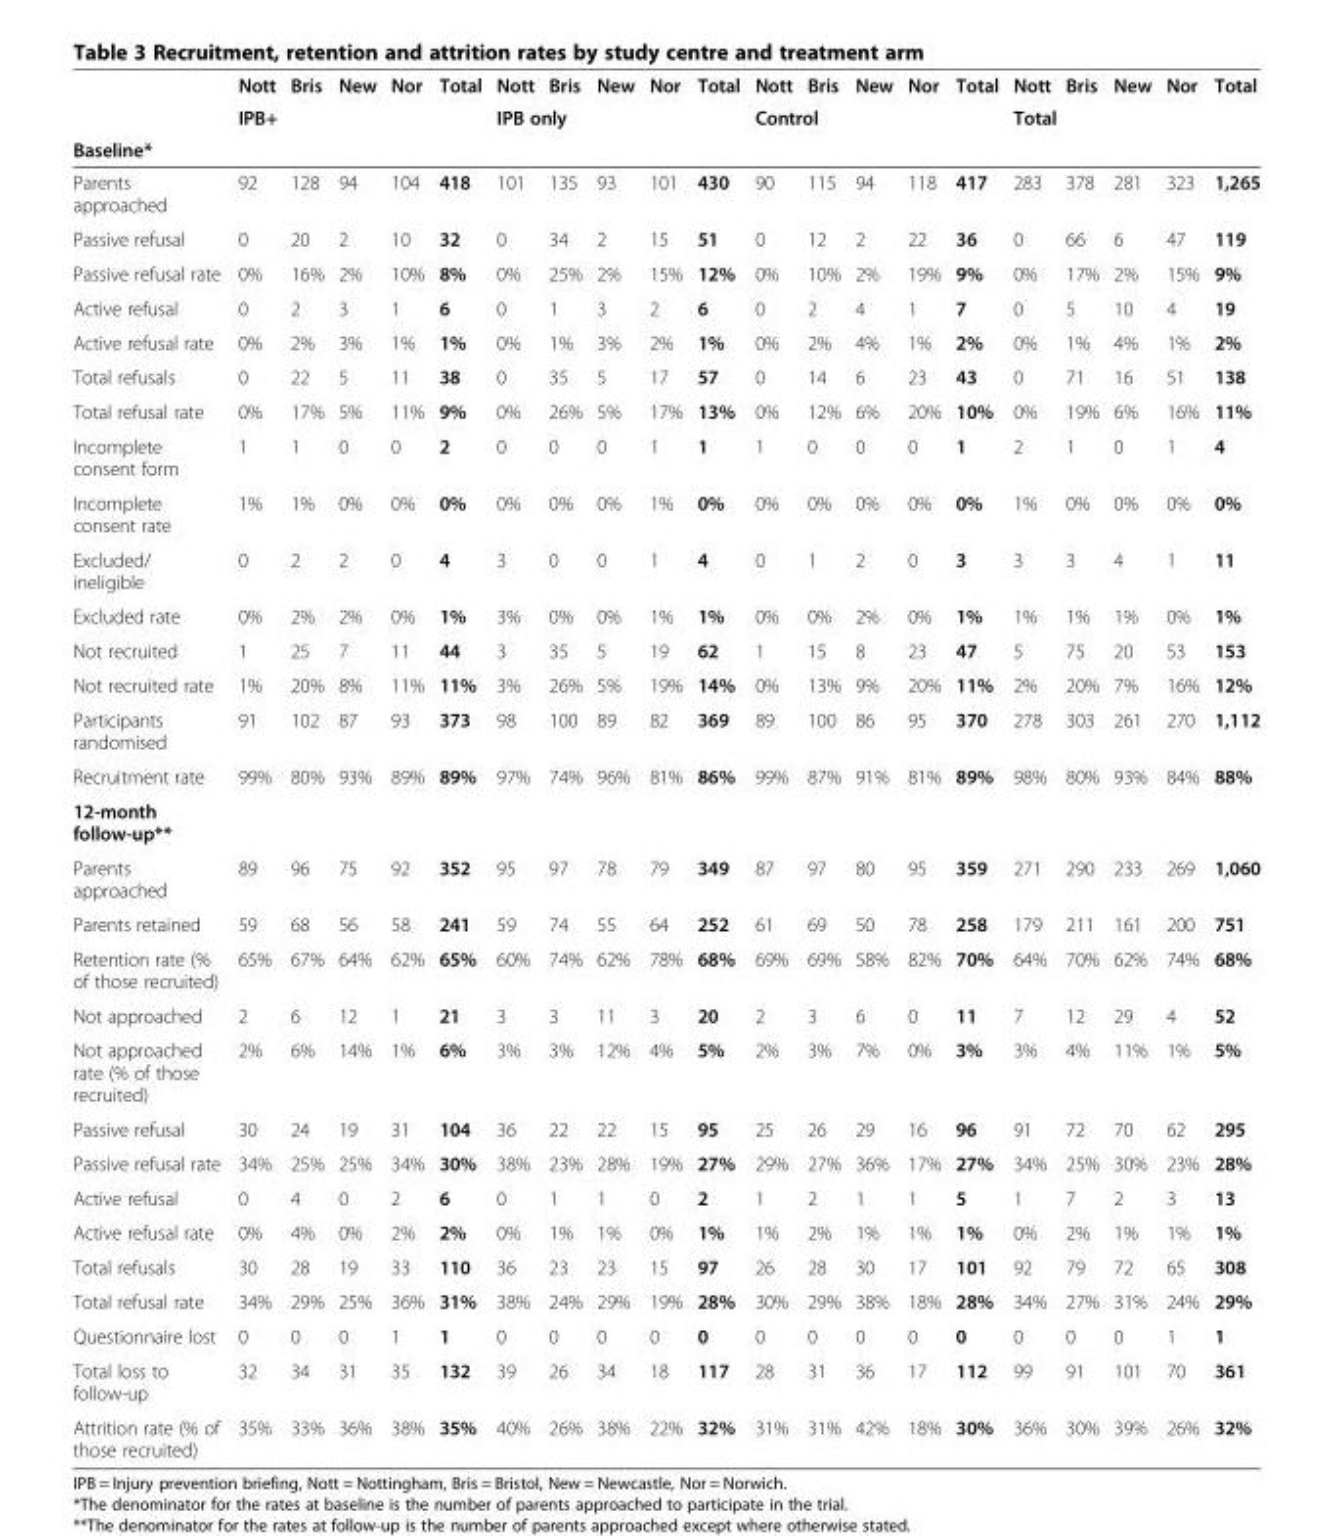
<table><thead><tr><td rowspan="3">Baseline*</td><td>Nott</td><td>Bris</td><td>New</td><td>Nor</td><td>Total</td><td>Nott</td><td>Bris</td><td>New</td><td>Nor</td><td>Total</td><td>Nott</td><td>Bris</td><td>New</td><td>Nor</td><td>Total</td><td>Nott</td><td>Bris</td><td>New</td><td>Nor</td><td>Total</td></tr><tr><td colspan="5">IPB+</td><td colspan="5">IPB only</td><td colspan="5">Control</td><td colspan="5">Total</td></tr><tr><td></td><td></td><td></td><td></td><td></td><td></td><td></td><td></td><td></td><td></td><td></td><td></td><td></td><td></td><td></td><td></td><td></td><td></td><td></td><td></td></tr></thead><tbody><tr><td>Parents approached</td><td>92</td><td>128</td><td>94</td><td>104</td><td>418</td><td>101</td><td>135</td><td>93</td><td>101</td><td>430</td><td>90</td><td>115</td><td>94</td><td>118</td><td>417</td><td>283</td><td>378</td><td>281</td><td>323</td><td>1,265</td></tr><tr><td>Passive refusal</td><td>0</td><td>20</td><td>2</td><td>10</td><td>32</td><td>0</td><td>34</td><td>2</td><td>15</td><td>51</td><td>0</td><td>12</td><td>2</td><td>22</td><td>36</td><td>0</td><td>66</td><td>6</td><td>47</td><td>119</td></tr><tr><td>Passive refusal rate</td><td>0%</td><td>16%</td><td>2%</td><td>10%</td><td>8%</td><td>0%</td><td>25%</td><td>2%</td><td>15%</td><td>12%</td><td>0%</td><td>10%</td><td>2%</td><td>19%</td><td>9%</td><td>0%</td><td>17%</td><td>2%</td><td>15%</td><td>9%</td></tr><tr><td>Active refusal</td><td>0</td><td>2</td><td>3</td><td>1</td><td>6</td><td>0</td><td>1</td><td>3</td><td>2</td><td>6</td><td>0</td><td>2</td><td>4</td><td>1</td><td>7</td><td>0</td><td>5</td><td>10</td><td>4</td><td>19</td></tr><tr><td>Active refusal rate</td><td>0%</td><td>2%</td><td>3%</td><td>1%</td><td>1%</td><td>0%</td><td>1%</td><td>3%</td><td>2%</td><td>1%</td><td>0%</td><td>2%</td><td>4%</td><td>1%</td><td>2%</td><td>0%</td><td>1%</td><td>4%</td><td>1%</td><td>2%</td></tr><tr><td>Total refusals</td><td>0</td><td>22</td><td>5</td><td>11</td><td>38</td><td>0</td><td>35</td><td>5</td><td>17</td><td>57</td><td>0</td><td>14</td><td>6</td><td>23</td><td>43</td><td>0</td><td>71</td><td>16</td><td>51</td><td>138</td></tr><tr><td>Total refusal rate</td><td>0%</td><td>17%</td><td>5%</td><td>11%</td><td>9%</td><td>0%</td><td>26%</td><td>5%</td><td>17%</td><td>13%</td><td>0%</td><td>12%</td><td>6%</td><td>20%</td><td>10%</td><td>0%</td><td>19%</td><td>6%</td><td>16%</td><td>11%</td></tr><tr><td>Incomplete consent form</td><td>1</td><td>1</td><td>0</td><td>0</td><td>2</td><td>0</td><td>0</td><td>0</td><td>1</td><td>1</td><td>1</td><td>0</td><td>0</td><td>0</td><td>1</td><td>2</td><td>1</td><td>0</td><td>1</td><td>4</td></tr><tr><td>Incomplete consent rate</td><td>1%</td><td>1%</td><td>0%</td><td>0%</td><td>0%</td><td>0%</td><td>0%</td><td>0%</td><td>1%</td><td>0%</td><td>0%</td><td>0%</td><td>0%</td><td>0%</td><td>0%</td><td>1%</td><td>0%</td><td>0%</td><td>0%</td><td>0%</td></tr><tr><td>Excluded/ ineligible</td><td>0</td><td>2</td><td>2</td><td>0</td><td>4</td><td>3</td><td>0</td><td>0</td><td>1</td><td>4</td><td>0</td><td>1</td><td>2</td><td>0</td><td>3</td><td>3</td><td>3</td><td>4</td><td>1</td><td>11</td></tr><tr><td>Excluded rate</td><td>0%</td><td>2%</td><td>2%</td><td>0%</td><td>1%</td><td>3%</td><td>0%</td><td>0%</td><td>1%</td><td>1%</td><td>0%</td><td>0%</td><td>2%</td><td>0%</td><td>1%</td><td>1%</td><td>1%</td><td>1%</td><td>0%</td><td>1%</td></tr><tr><td>Not recruited</td><td>1</td><td>25</td><td>7</td><td>11</td><td>44</td><td>3</td><td>35</td><td>5</td><td>19</td><td>62</td><td>1</td><td>15</td><td>8</td><td>23</td><td>47</td><td>5</td><td>75</td><td>20</td><td>53</td><td>153</td></tr><tr><td>Not recruited rate</td><td>1%</td><td>20%</td><td>8%</td><td>11%</td><td>11%</td><td>3%</td><td>26%</td><td>5%</td><td>19%</td><td>14%</td><td>0%</td><td>13%</td><td>9%</td><td>20%</td><td>11%</td><td>2%</td><td>20%</td><td>7%</td><td>16%</td><td>12%</td></tr><tr><td>Participants randomised</td><td>91</td><td>102</td><td>87</td><td>93</td><td>373</td><td>98</td><td>100</td><td>89</td><td>82</td><td>369</td><td>89</td><td>100</td><td>86</td><td>95</td><td>370</td><td>278</td><td>303</td><td>261</td><td>270</td><td>1,112</td></tr><tr><td>Recruitment rate</td><td>99%</td><td>80%</td><td>93%</td><td>89%</td><td>89%</td><td>97%</td><td>74%</td><td>96%</td><td>81%</td><td>86%</td><td>99%</td><td>87%</td><td>91%</td><td>81%</td><td>89%</td><td>98%</td><td>80%</td><td>93%</td><td>84%</td><td>88%</td></tr><tr><td colspan="21">12-month follow-up**</td></tr><tr><td>Parents approached</td><td>89</td><td>96</td><td>75</td><td>92</td><td>352</td><td>95</td><td>97</td><td>78</td><td>79</td><td>349</td><td>87</td><td>97</td><td>80</td><td>95</td><td>359</td><td>271</td><td>290</td><td>233</td><td>269</td><td>1,060</td></tr><tr><td>Parents retained</td><td>59</td><td>68</td><td>56</td><td>58</td><td>241</td><td>59</td><td>74</td><td>55</td><td>64</td><td>252</td><td>61</td><td>69</td><td>50</td><td>78</td><td>258</td><td>179</td><td>211</td><td>161</td><td>200</td><td>751</td></tr><tr><td>Retention rate (% of those recruited)</td><td>65%</td><td>67%</td><td>64%</td><td>62%</td><td>65%</td><td>60%</td><td>74%</td><td>62%</td><td>78%</td><td>68%</td><td>69%</td><td>69%</td><td>58%</td><td>82%</td><td>70%</td><td>64%</td><td>70%</td><td>62%</td><td>74%</td><td>68%</td></tr><tr><td>Not approached</td><td>2</td><td>6</td><td>12</td><td>1</td><td>21</td><td>3</td><td>3</td><td>11</td><td>3</td><td>20</td><td>2</td><td>3</td><td>6</td><td>0</td><td>11</td><td>7</td><td>12</td><td>29</td><td>4</td><td>52</td></tr><tr><td>Not approached rate (% of those recruited)</td><td>2%</td><td>6%</td><td>14%</td><td>1%</td><td>6%</td><td>3%</td><td>3%</td><td>12%</td><td>4%</td><td>5%</td><td>2%</td><td>3%</td><td>7%</td><td>0%</td><td>3%</td><td>3%</td><td>4%</td><td>11%</td><td>1%</td><td>5%</td></tr><tr><td>Passive refusal</td><td>30</td><td>24</td><td>19</td><td>31</td><td>104</td><td>36</td><td>22</td><td>22</td><td>15</td><td>95</td><td>25</td><td>26</td><td>29</td><td>16</td><td>96</td><td>91</td><td>72</td><td>70</td><td>62</td><td>295</td></tr><tr><td>Passive refusal rate</td><td>34%</td><td>25%</td><td>25%</td><td>34%</td><td>30%</td><td>38%</td><td>23%</td><td>28%</td><td>19%</td><td>27%</td><td>29%</td><td>27%</td><td>36%</td><td>17%</td><td>27%</td><td>34%</td><td>25%</td><td>30%</td><td>23%</td><td>28%</td></tr><tr><td>Active refusal</td><td>0</td><td>4</td><td>0</td><td>2</td><td>6</td><td>0</td><td>1</td><td>1</td><td>0</td><td>2</td><td>1</td><td>2</td><td>1</td><td>1</td><td>5</td><td>1</td><td>7</td><td>2</td><td>3</td><td>13</td></tr><tr><td>Active refusal rate</td><td>0%</td><td>4%</td><td>0%</td><td>2%</td><td>2%</td><td>0%</td><td>1%</td><td>1%</td><td>0%</td><td>1%</td><td>1%</td><td>2%</td><td>1%</td><td>1%</td><td>1%</td><td>0%</td><td>2%</td><td>1%</td><td>1%</td><td>1%</td></tr><tr><td>Total refusals</td><td>30</td><td>28</td><td>19</td><td>33</td><td>110</td><td>36</td><td>23</td><td>23</td><td>15</td><td>97</td><td>26</td><td>28</td><td>30</td><td>17</td><td>101</td><td>92</td><td>79</td><td>72</td><td>65</td><td>308</td></tr><tr><td>Total refusal rate</td><td>34%</td><td>29%</td><td>25%</td><td>36%</td><td>31%</td><td>38%</td><td>24%</td><td>29%</td><td>19%</td><td>28%</td><td>30%</td><td>29%</td><td>38%</td><td>18%</td><td>28%</td><td>34%</td><td>27%</td><td>31%</td><td>24%</td><td>29%</td></tr><tr><td>Questionnaire lost</td><td>0</td><td>0</td><td>0</td><td>1</td><td>1</td><td>0</td><td>0</td><td>0</td><td>0</td><td>0</td><td>0</td><td>0</td><td>0</td><td>0</td><td>0</td><td>0</td><td>0</td><td>0</td><td>1</td><td>1</td></tr><tr><td>Total loss to follow-up</td><td>32</td><td>34</td><td>31</td><td>35</td><td>132</td><td>39</td><td>26</td><td>34</td><td>18</td><td>117</td><td>28</td><td>31</td><td>36</td><td>17</td><td>112</td><td>99</td><td>91</td><td>101</td><td>70</td><td>361</td></tr><tr><td>Attrition rate (% of those recruited)</td><td>35%</td><td>33%</td><td>36%</td><td>38%</td><td>35%</td><td>40%</td><td>26%</td><td>38%</td><td>22%</td><td>32%</td><td>31%</td><td>31%</td><td>42%</td><td>18%</td><td>30%</td><td>36%</td><td>30%</td><td>39%</td><td>26%</td><td>32%</td></tr></tbody></table>